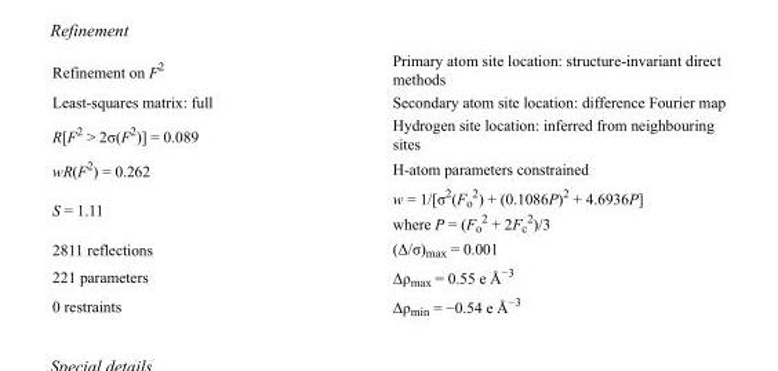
<table><tbody><tr><td>Refinement on F<sup>2</sup></td><td>Primary atom site location: structure-invariant direct methods</td></tr><tr><td>Least-squares matrix: full</td><td>Secondary atom site location: difference Fourier map</td></tr><tr><td>R[F<sup>2</sup> &gt; 2σ(F<sup>2</sup>)] = 0.089</td><td>Hydrogen site location: inferred from neighbouring sites</td></tr><tr><td>wR(F<sup>2</sup>) = 0.262</td><td>H-atom parameters constrained</td></tr><tr><td>S = 1.11</td><td>w = 1/[σ<sup>2</sup>(F<sub>o</sub> <sup>2</sup>) + (0.1086P)<sup>2</sup> + 4.6936P] where P = (F<sub>o</sub> <sup>2</sup> + 2F<sub>c</sub> <sup>2</sup>)/3</td></tr><tr><td>2811 reflections</td><td>(Δ/σ)<sub>max</sub> = 0.001</td></tr><tr><td>221 parameters</td><td>Δρ<sub>max</sub> = 0.55 e Å<sup>−3</sup></td></tr><tr><td>0 restraints</td><td>Δρ<sub>min</sub> = −0.54 e Å<sup>−3</sup></td></tr></tbody></table>